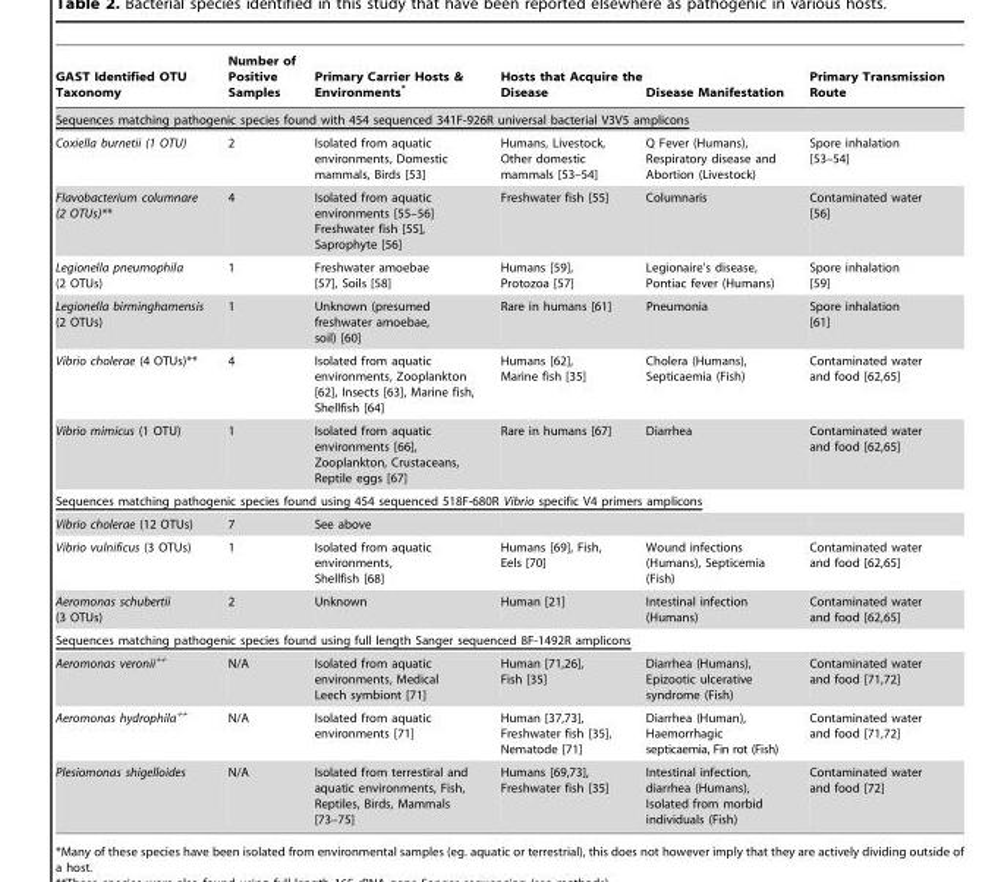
<table><thead><tr><td>GAST Identified OTU Taxonomy</td><td>Number of Positive Samples</td><td>Primary Carrier Hosts &amp; Environments*</td><td>Hosts that Acquire the Disease</td><td>Disease Manifestation</td><td>Primary Transmission Route</td></tr></thead><tbody><tr><td colspan="6">Sequences matching pathogenic species found with 454 sequenced 341F-926R universal bacterial V3V5 amplicons</td></tr><tr><td>Coxiella burnetii (1 OTU)</td><td>2</td><td>Isolated from aquatic environments, Domestic mammals, Birds [53]</td><td>Humans, Livestock, Other domestic mammals [53–54]</td><td>Q Fever (Humans), Respiratory disease and Abortion (Livestock)</td><td>Spore inhalation [53–54]</td></tr><tr><td>Flavobacterium columnare (2 OTUs)**</td><td>4</td><td>Isolated from aquatic environments [55–56] Freshwater fish [55], Saprophyte [56]</td><td>Freshwater fish [55]</td><td>Columnaris</td><td>Contaminated water [56]</td></tr><tr><td>Legionella pneumophila (2 OTUs)</td><td>1</td><td>Freshwater amoebae [57], Soils [58]</td><td>Humans [59], Protozoa [57]</td><td>Legionaire’s disease, Pontiac fever (Humans)</td><td>Spore inhalation [59]</td></tr><tr><td>Legionella birminghamensis (2 OTUs)</td><td>1</td><td>Unknown (presumed freshwater amoebae, soil) [60]</td><td>Rare in humans [61]</td><td>Pneumonia</td><td>Spore inhalation [61]</td></tr><tr><td>Vibrio cholerae (4 OTUs)**</td><td>4</td><td>Isolated from aquatic environments, Zooplankton [62], Insects [63], Marine fish, Shellfish [64]</td><td>Humans [62], Marine fish [35]</td><td>Cholera (Humans), Septicaemia (Fish)</td><td>Contaminated water and food [62,65]</td></tr><tr><td>Vibrio mimicus (1 OTU)</td><td>1</td><td>Isolated from aquatic environments [66], Zooplankton, Crustaceans, Reptile eggs [67]</td><td>Rare in humans [67]</td><td>Diarrhea</td><td>Contaminated water and food [62,65]</td></tr><tr><td colspan="6">Sequences matching pathogenic species found using 454 sequenced 518F-680R Vibrio specific V4 primers amplicons</td></tr><tr><td>Vibrio cholerae (12 OTUs)</td><td>7</td><td>See above</td><td></td><td></td><td></td></tr><tr><td>Vibrio vulnificus (3 OTUs)</td><td>1</td><td>Isolated from aquatic environments, Shellfish [68]</td><td>Humans [69], Fish, Eels [70]</td><td>Wound infections (Humans), Septicemia (Fish)</td><td>Contaminated water and food [62,65]</td></tr><tr><td>Aeromonas schubertii (3 OTUs)</td><td>2</td><td>Unknown</td><td>Human [21]</td><td>Intestinal infection (Humans)</td><td>Contaminated water and food [62,65]</td></tr><tr><td colspan="6">Sequences matching pathogenic species found using full length Sanger sequenced 8F-1492R amplicons</td></tr><tr><td>Aeromonas veronii++</td><td>N/A</td><td>Isolated from aquatic environments, Medical Leech symbiont [71]</td><td>Human [71,26], Fish [35]</td><td>Diarrhea (Humans), Epizootic ulcerative syndrome (Fish)</td><td>Contaminated water and food [71,72]</td></tr><tr><td>Aeromonas hydrophila++</td><td>N/A</td><td>Isolated from aquatic environments [71]</td><td>Human [37,73], Freshwater fish [35], Nematode [71]</td><td>Diarrhea (Human), Haemorrhagic septicaemia, Fin rot (Fish)</td><td>Contaminated water and food [71,72]</td></tr><tr><td>Plesiomonas shigelloides</td><td>N/A</td><td>Isolated from terrestiral and aquatic environments, Fish, Reptiles, Birds, Mammals [73–75]</td><td>Humans [69,73], Freshwater fish [35]</td><td>Intestinal infection, diarrhea (Humans), Isolated from morbid individuals (Fish)</td><td>Contaminated water and food [72]</td></tr></tbody></table>